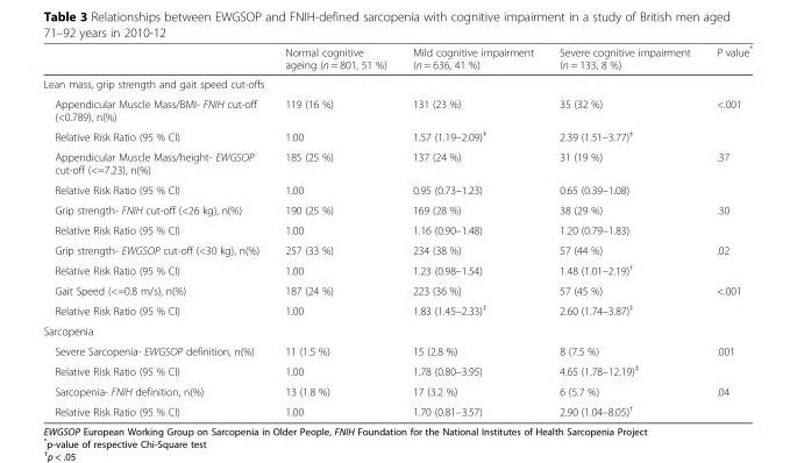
<table><thead><tr><td></td><td>Normal cognitive ageing (n = 801, 51 %)</td><td>Mild cognitive impairment (n = 636, 41 %)</td><td>Severe cognitive impairment (n = 133, 8 %)</td><td>P value*</td></tr></thead><tbody><tr><td colspan="5">Lean mass, grip strength and gait speed cut-offs</td></tr><tr><td>Appendicular Muscle Mass/BMI- FNIH cut-off (&lt;0.789), n(%)</td><td>119 (16 %)</td><td>131 (23 %)</td><td>35 (32 %)</td><td>&lt;.001</td></tr><tr><td>Relative Risk Ratio (95 % CI)</td><td>1.00</td><td>1.57 (1.19–2.09)<sup>‡</sup></td><td>2.39 (1.51–3.77)<sup>‡</sup></td><td></td></tr><tr><td>Appendicular Muscle Mass/height- EWGSOP cut-off (&lt;=7.23), n(%)</td><td>185 (25 %)</td><td>137 (24 %)</td><td>31 (19 %)</td><td>.37</td></tr><tr><td>Relative Risk Ratio (95 % CI)</td><td>1.00</td><td>0.95 (0.73–1.23)</td><td>0.65 (0.39–1.08)</td><td></td></tr><tr><td>Grip strength- FNIH cut-off (&lt;26 kg), n(%)</td><td>190 (25 %)</td><td>169 (28 %)</td><td>38 (29 %)</td><td>.30</td></tr><tr><td>Relative Risk Ratio (95 % CI)</td><td>1.00</td><td>1.16 (0.90–1.48)</td><td>1.20 (0.79–1.83)</td><td></td></tr><tr><td>Grip strength- EWGSOP cut-off (&lt;30 kg), n(%)</td><td>257 (33 %)</td><td>234 (38 %)</td><td>57 (44 %)</td><td>.02</td></tr><tr><td>Relative Risk Ratio (95 % CI)</td><td>1.00</td><td>1.23 (0.98–1.54)</td><td>1.48 (1.01–2.19)<sup>†</sup></td><td></td></tr><tr><td>Gait Speed (&lt;=0.8 m/s), n(%)</td><td>187 (24 %)</td><td>223 (36 %)</td><td>57 (45 %)</td><td>&lt;.001</td></tr><tr><td>Relative Risk Ratio (95 % CI)</td><td>1.00</td><td>1.83 (1.45–2.33)<sup>‡</sup></td><td>2.60 (1.74–3.87)<sup>‡</sup></td><td></td></tr><tr><td colspan="5">Sarcopenia</td></tr><tr><td>Severe Sarcopenia- EWGSOP definition, n(%)</td><td>11 (1.5 %)</td><td>15 (2.8 %)</td><td>8 (7.5 %)</td><td>.001</td></tr><tr><td>Relative Risk Ratio (95 % CI)</td><td>1.00</td><td>1.78 (0.80–3.95)</td><td>4.65 (1.78–12.19)<sup>‡</sup></td><td></td></tr><tr><td>Sarcopenia- FNIH definition, n(%)</td><td>13 (1.8 %)</td><td>17 (3.2 %)</td><td>6 (5.7 %)</td><td>.04</td></tr><tr><td>Relative Risk Ratio (95 % CI)</td><td>1.00</td><td>1.70 (0.81–3.57)</td><td>2.90 (1.04–8.05)<sup>†</sup></td><td></td></tr></tbody></table>